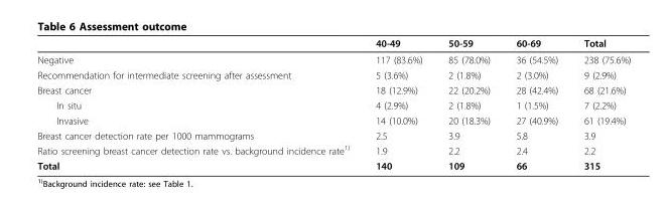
<table><thead><tr><td></td><td>40-49</td><td>50-59</td><td>60-69</td><td>Total</td></tr></thead><tbody><tr><td>Negative</td><td>117 (83.6%)</td><td>85 (78.0%)</td><td>36 (54.5%)</td><td>238 (75.6%)</td></tr><tr><td>Recommendation for intermediate screening after assessment</td><td>5 (3.6%)</td><td>2 (1.8%)</td><td>2 (3.0%)</td><td>9 (2.9%)</td></tr><tr><td>Breast cancer</td><td>18 (12.9%)</td><td>22 (20.2%)</td><td>28 (42.4%)</td><td>68 (21.6%)</td></tr><tr><td>In situ</td><td>4 (2.9%)</td><td>2 (1.8%)</td><td>1 (1.5%)</td><td>7 (2.2%)</td></tr><tr><td>Invasive</td><td>14 (10.0%)</td><td>20 (18.3%)</td><td>27 (40.9%)</td><td>61 (19.4%)</td></tr><tr><td>Breast cancer detection rate per 1000 mammograms</td><td>2.5</td><td>3.9</td><td>5.8</td><td>3.9</td></tr><tr><td>Ratio screening breast cancer detection rate vs. background incidence rate<sup>1)</sup></td><td>1.9</td><td>2.2</td><td>2.4</td><td>2.2</td></tr><tr><td>Total</td><td>140</td><td>109</td><td>66</td><td>315</td></tr></tbody></table>